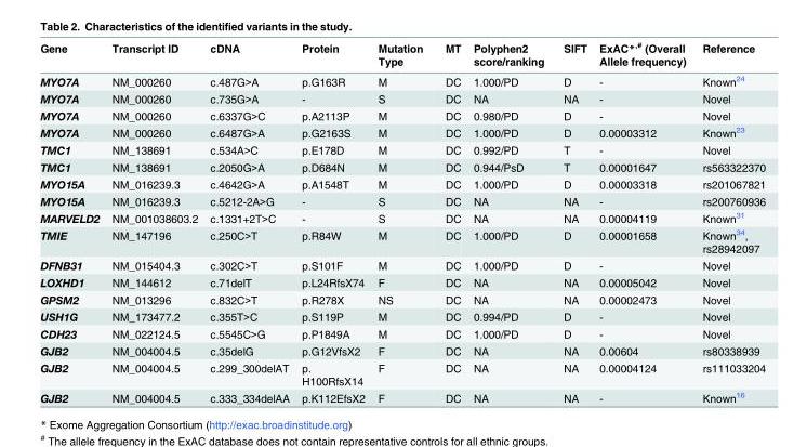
<table><thead><tr><td>Gene</td><td>Transcript ID</td><td>cDNA</td><td>Protein</td><td>Mutation Type</td><td>MT</td><td>Polyphen2 score/ranking</td><td>SIFT</td><td>ExAC*<sup>,#</sup> (Overall Allele frequency)</td><td>Reference</td></tr></thead><tbody><tr><td>MYO7A</td><td>NM_000260</td><td>c.487G&gt;A</td><td>p.G163R</td><td>M</td><td>DC</td><td>1.000/PD</td><td>D</td><td>-</td><td>Known<sup>24</sup></td></tr><tr><td>MYO7A</td><td>NM_000260</td><td>c.735G&gt;A</td><td>-</td><td>S</td><td>DC</td><td>NA</td><td>NA</td><td>-</td><td>Novel</td></tr><tr><td>MYO7A</td><td>NM_000260</td><td>c.6337G&gt;C</td><td>p.A2113P</td><td>M</td><td>DC</td><td>0.980/PD</td><td>D</td><td>-</td><td>Novel</td></tr><tr><td>MYO7A</td><td>NM_000260</td><td>c.6487G&gt;A</td><td>p.G2163S</td><td>M</td><td>DC</td><td>1.000/PD</td><td>D</td><td>0.00003312</td><td>Known<sup>23</sup></td></tr><tr><td>TMC1</td><td>NM_138691</td><td>c.534A&gt;C</td><td>p.E178D</td><td>M</td><td>DC</td><td>0.992/PD</td><td>T</td><td>-</td><td>Novel</td></tr><tr><td>TMC1</td><td>NM_138691</td><td>c.2050G&gt;A</td><td>p.D684N</td><td>M</td><td>DC</td><td>0.944/PsD</td><td>T</td><td>0.00001647</td><td>rs563322370</td></tr><tr><td>MYO15A</td><td>NM_016239.3</td><td>c.4642G&gt;A</td><td>p.A1548T</td><td>M</td><td>DC</td><td>1.000/PD</td><td>D</td><td>0.00003318</td><td>rs201067821</td></tr><tr><td>MYO15A</td><td>NM_016239.3</td><td>c.5212-2A&gt;G</td><td>-</td><td>S</td><td>DC</td><td>NA</td><td>NA</td><td>-</td><td>rs200760936</td></tr><tr><td>MARVELD2</td><td>NM_001038603.2</td><td>c.1331+2T&gt;C</td><td>-</td><td>S</td><td>DC</td><td>NA</td><td>NA</td><td>0.00004119</td><td>Known<sup>31</sup></td></tr><tr><td>TMIE</td><td>NM_147196</td><td>c.250C&gt;T</td><td>p.R84W</td><td>M</td><td>DC</td><td>1.000/PD</td><td>D</td><td>0.00001658</td><td>Known<sup>34</sup>, rs28942097</td></tr><tr><td>DFNB31</td><td>NM_015404.3</td><td>c.302C&gt;T</td><td>p.S101F</td><td>M</td><td>DC</td><td>1.000/PD</td><td>D</td><td>-</td><td>Novel</td></tr><tr><td>LOXHD1</td><td>NM_144612</td><td>c.71delT</td><td>p.L24RfsX74</td><td>F</td><td>DC</td><td>NA</td><td>NA</td><td>0.00005042</td><td>Novel</td></tr><tr><td>GPSM2</td><td>NM_013296</td><td>c.832C&gt;T</td><td>p.R278X</td><td>NS</td><td>DC</td><td>NA</td><td>NA</td><td>0.00002473</td><td>Novel</td></tr><tr><td>USH1G</td><td>NM_173477.2</td><td>c.355T&gt;C</td><td>p.S119P</td><td>M</td><td>DC</td><td>0.994/PD</td><td>D</td><td>-</td><td>Novel</td></tr><tr><td>CDH23</td><td>NM_022124.5</td><td>c.5545C&gt;G</td><td>p.P1849A</td><td>M</td><td>DC</td><td>1.000/PD</td><td>D</td><td>-</td><td>Novel</td></tr><tr><td>GJB2</td><td>NM_004004.5</td><td>c.35delG</td><td>p.G12VfsX2</td><td>F</td><td>DC</td><td>NA</td><td>NA</td><td>0.00604</td><td>rs80338939</td></tr><tr><td>GJB2</td><td>NM_004004.5</td><td>c.299_300delAT</td><td>p. H100RfsX14</td><td>F</td><td>DC</td><td>NA</td><td>NA</td><td>0.00004124</td><td>rs111033204</td></tr><tr><td>GJB2</td><td>NM_004004.5</td><td>c.333_334delAA</td><td>p.K112EfsX2</td><td>F</td><td>DC</td><td>NA</td><td>NA</td><td>-</td><td>Known<sup>16</sup></td></tr></tbody></table>